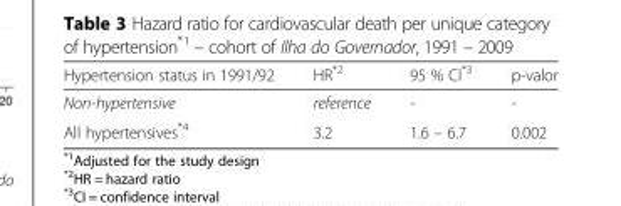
<table><thead><tr><td>Hypertension status in 1991/92</td><td>HR<sup>*2</sup></td><td>95 % CI<sup>*3</sup></td><td>p-valor</td></tr></thead><tbody><tr><td>Non-hypertensive</td><td>reference</td><td>-</td><td>-</td></tr><tr><td>All hypertensives<sup>*4</sup></td><td>3.2</td><td>1.6 – 6.7</td><td>0.002</td></tr></tbody></table>